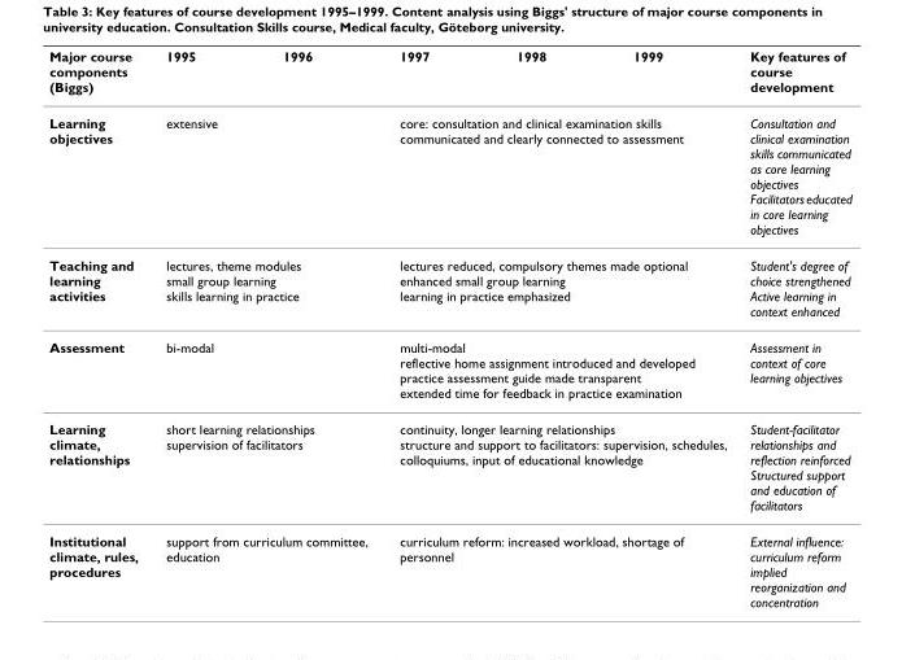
<table><thead><tr><td>Major course components (Biggs)</td><td>1995</td><td>1996</td><td>1997</td><td>1998</td><td>1999</td><td>Key features of course development</td></tr></thead><tbody><tr><td>Learning objectives</td><td colspan="2">extensive</td><td colspan="3">core: consultation and clinical examination skills communicated and clearly connected to assessment</td><td>Consultation and clinical examination skills communicated as core learning objectives Facilitators educated in core learning objectives</td></tr><tr><td>Teaching and learning activities</td><td colspan="2">lectures, theme modules small group learning skills learning in practice</td><td colspan="3">lectures reduced, compulsory themes made optional enhanced small group learning learning in practice emphasized</td><td>Student&#x27;s degree of choice strengthened Active learning in context enhanced</td></tr><tr><td>Assessment</td><td colspan="2">bi-modal</td><td colspan="3">multi-modal reflective home assignment introduced and developed practice assessment guide made transparent extended time for feedback in practice examination</td><td>Assessment in context of core learning objectives</td></tr><tr><td>Learning climate, relationships</td><td colspan="2">short learning relationships supervision of facilitators</td><td colspan="3">continuity, longer learning relationships structure and support to facilitators: supervision, schedules, colloquiums, input of educational knowledge</td><td>Student-facilitator relationships and reflection reinforced Structured support and education of facilitators</td></tr><tr><td>Institutional climate, rules, procedures</td><td colspan="2">support from curriculum committee, education</td><td colspan="3">curriculum reform: increased workload, shortage of personnel</td><td>External influence: curriculum reform implied reorganization and concentration</td></tr></tbody></table>